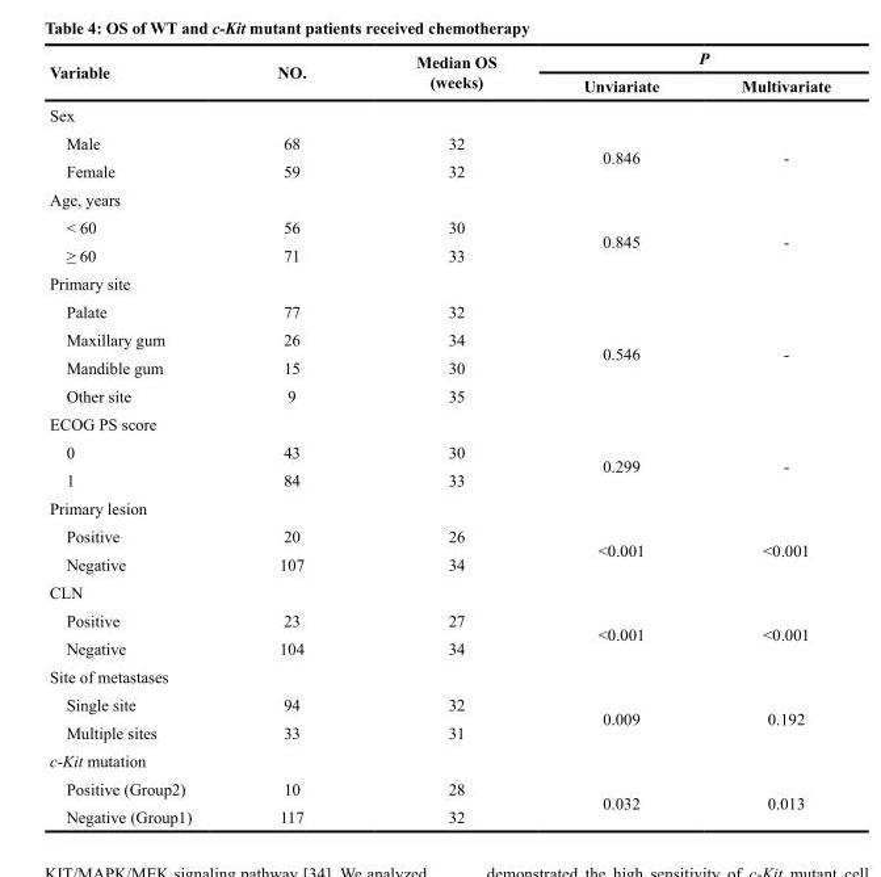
<table><thead><tr><td rowspan="2">Variable</td><td rowspan="2">NO.</td><td rowspan="2">Median OS (weeks)</td><td colspan="2">P</td></tr><tr><td>Unviariate</td><td>Multivariate</td></tr></thead><tbody><tr><td colspan="5">Sex</td></tr><tr><td>Male</td><td>68</td><td>32</td><td rowspan="2">0.846</td><td rowspan="2">-</td></tr><tr><td>Female</td><td>59</td><td>32</td></tr><tr><td colspan="5">Age, years</td></tr><tr><td>&lt; 60</td><td>56</td><td>30</td><td rowspan="2">0.845</td><td rowspan="2">-</td></tr><tr><td>≥ 60</td><td>71</td><td>33</td></tr><tr><td colspan="5">Primary site</td></tr><tr><td>Palate</td><td>77</td><td>32</td><td rowspan="4">0.546</td><td rowspan="4">-</td></tr><tr><td>Maxillary gum</td><td>26</td><td>34</td></tr><tr><td>Mandible gum</td><td>15</td><td>30</td></tr><tr><td>Other site</td><td>9</td><td>35</td></tr><tr><td colspan="5">ECOG PS score</td></tr><tr><td>0</td><td>43</td><td>30</td><td rowspan="2">0.299</td><td rowspan="2">-</td></tr><tr><td>1</td><td>84</td><td>33</td></tr><tr><td colspan="5">Primary lesion</td></tr><tr><td>Positive</td><td>20</td><td>26</td><td rowspan="2">&lt;0.001</td><td rowspan="2">&lt;0.001</td></tr><tr><td>Negative</td><td>107</td><td>34</td></tr><tr><td colspan="5">CLN</td></tr><tr><td>Positive</td><td>23</td><td>27</td><td rowspan="2">&lt;0.001</td><td rowspan="2">&lt;0.001</td></tr><tr><td>Negative</td><td>104</td><td>34</td></tr><tr><td colspan="5">Site of metastases</td></tr><tr><td>Single site</td><td>94</td><td>32</td><td rowspan="2">0.009</td><td rowspan="2">0.192</td></tr><tr><td>Multiple sites</td><td>33</td><td>31</td></tr><tr><td colspan="5">c-Kit mutation</td></tr><tr><td>Positive (Group2)</td><td>10</td><td>28</td><td rowspan="2">0.032</td><td rowspan="2">0.013</td></tr><tr><td>Negative (Group1)</td><td>117</td><td>32</td></tr></tbody></table>